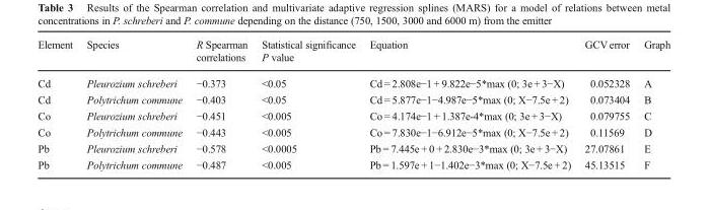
<table><thead><tr><td>Element</td><td>Species</td><td>R Spearman correlations</td><td>Statistical significance P value</td><td>Equation</td><td>GCV error</td><td>Graph</td></tr></thead><tbody><tr><td>Cd</td><td>Pleurozium schreberi</td><td>−0.373</td><td>&lt;0.05</td><td>Cd = 2.808e−1 + 9.822e−5*max (0; 3e + 3−X)</td><td>0.052328</td><td>A</td></tr><tr><td>Cd</td><td>Polytrichum commune</td><td>−0.403</td><td>&lt;0.05</td><td>Cd = 5.877e−1−4.987e−5*max (0; X−7.5e + 2)</td><td>0.073404</td><td>B</td></tr><tr><td>Co</td><td>Pleurozium schreberi</td><td>−0.451</td><td>&lt;0.005</td><td>Co = 4.174e−1 + 1.387e-4*max (0; 3e + 3−X)</td><td>0.079755</td><td>C</td></tr><tr><td>Co</td><td>Polytrichum commune</td><td>−0.443</td><td>&lt;0.005</td><td>Co = 7.830e−1−6.912e−5*max (0; X−7.5e + 2)</td><td>0.11569</td><td>D</td></tr><tr><td>Pb</td><td>Pleurozium schreberi</td><td>−0.578</td><td>&lt;0.0005</td><td>Pb = 7.445e + 0 + 2.830e−3*max (0; 3e + 3−X)</td><td>27.07861</td><td>E</td></tr><tr><td>Pb</td><td>Polytrichum commune</td><td>−0.487</td><td>&lt;0.005</td><td>Pb = 1.597e + 1−1.402e−3*max (0; X−7.5e + 2)</td><td>45.13515</td><td>F</td></tr></tbody></table>